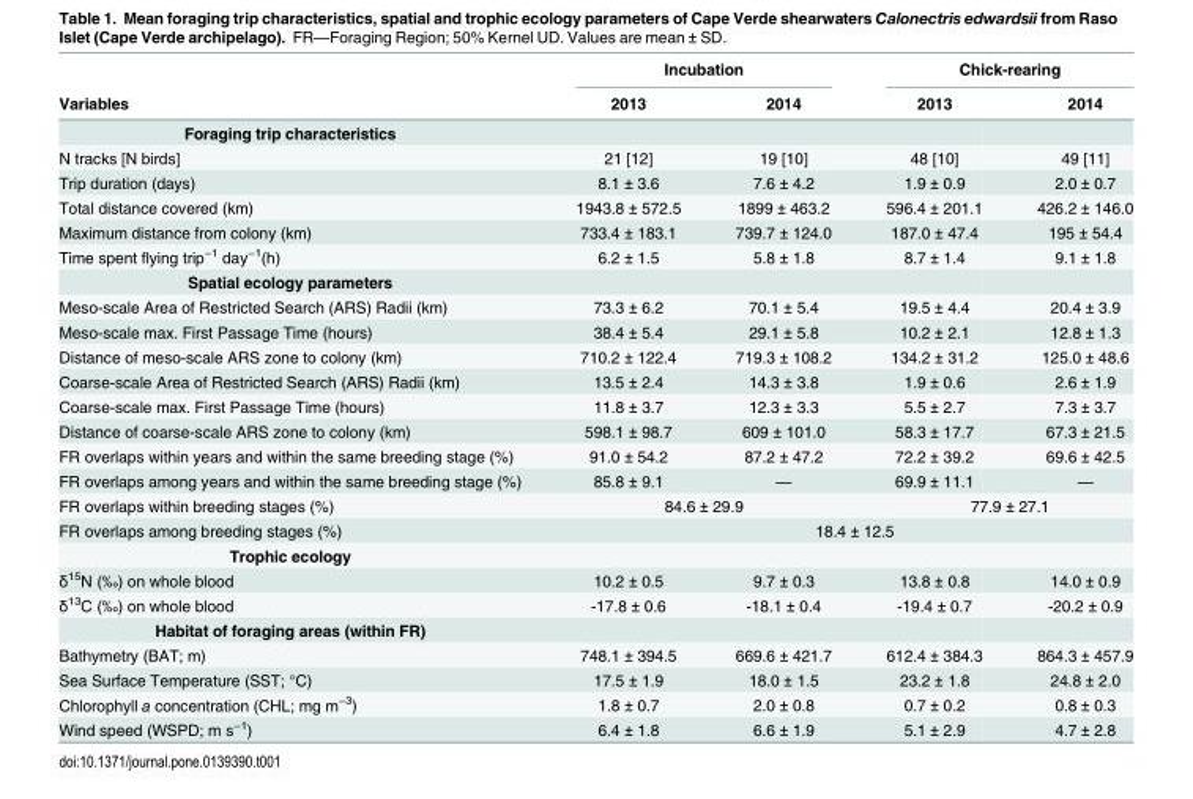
<table><thead><tr><td rowspan="2">Variables</td><td colspan="2">Incubation</td><td colspan="2">Chick-rearing</td></tr><tr><td>2013</td><td>2014</td><td>2013</td><td>2014</td></tr></thead><tbody><tr><td colspan="5">Foraging trip characteristics</td></tr><tr><td>N tracks [N birds]</td><td>21 [12]</td><td>19 [10]</td><td>48 [10]</td><td>49 [11]</td></tr><tr><td>Trip duration (days)</td><td>8.1 ± 3.6</td><td>7.6 ± 4.2</td><td>1.9 ± 0.9</td><td>2.0 ± 0.7</td></tr><tr><td>Total distance covered (km)</td><td>1943.8 ± 572.5</td><td>1899 ± 463.2</td><td>596.4 ± 201.1</td><td>426.2 ± 146.0</td></tr><tr><td>Maximum distance from colony (km)</td><td>733.4 ± 183.1</td><td>739.7 ± 124.0</td><td>187.0 ± 47.4</td><td>195 ± 54.4</td></tr><tr><td>Time spent flying trip<sup>−1</sup> day<sup>−1</sup>(h)</td><td>6.2 ± 1.5</td><td>5.8 ± 1.8</td><td>8.7 ± 1.4</td><td>9.1 ± 1.8</td></tr><tr><td colspan="5">Spatial ecology parameters</td></tr><tr><td>Meso-scale Area of Restricted Search (ARS) Radii (km)</td><td>73.3 ± 6.2</td><td>70.1 ± 5.4</td><td>19.5 ± 4.4</td><td>20.4 ± 3.9</td></tr><tr><td>Meso-scale max. First Passage Time (hours)</td><td>38.4 ± 5.4</td><td>29.1 ± 5.8</td><td>10.2 ± 2.1</td><td>12.8 ± 1.3</td></tr><tr><td>Distance of meso-scale ARS zone to colony (km)</td><td>710.2 ± 122.4</td><td>719.3 ± 108.2</td><td>134.2 ± 31.2</td><td>125.0 ± 48.6</td></tr><tr><td>Coarse-scale Area of Restricted Search (ARS) Radii (km)</td><td>13.5 ± 2.4</td><td>14.3 ± 3.8</td><td>1.9 ± 0.6</td><td>2.6 ± 1.9</td></tr><tr><td>Coarse-scale max. First Passage Time (hours)</td><td>11.8 ± 3.7</td><td>12.3 ± 3.3</td><td>5.5 ± 2.7</td><td>7.3 ± 3.7</td></tr><tr><td>Distance of coarse-scale ARS zone to colony (km)</td><td>598.1 ± 98.7</td><td>609 ± 101.0</td><td>58.3 ± 17.7</td><td>67.3 ± 21.5</td></tr><tr><td>FR overlaps within years and within the same breeding stage (%)</td><td>91.0 ± 54.2</td><td>87.2 ± 47.2</td><td>72.2 ± 39.2</td><td>69.6 ± 42.5</td></tr><tr><td>FR overlaps among years and within the same breeding stage (%)</td><td>85.8 ± 9.1</td><td>—</td><td>69.9 ± 11.1</td><td>—</td></tr><tr><td>FR overlaps within breeding stages (%)</td><td colspan="2">84.6 ± 29.9</td><td colspan="2">77.9 ± 27.1</td></tr><tr><td>FR overlaps among breeding stages (%)</td><td colspan="4">18.4 ± 12.5</td></tr><tr><td colspan="5">Trophic ecology</td></tr><tr><td>δ<sup>15</sup>N (‰) on whole blood</td><td>10.2 ± 0.5</td><td>9.7 ± 0.3</td><td>13.8 ± 0.8</td><td>14.0 ± 0.9</td></tr><tr><td>δ<sup>13</sup>C (‰) on whole blood</td><td>-17.8 ± 0.6</td><td>-18.1 ± 0.4</td><td>-19.4 ± 0.7</td><td>-20.2 ± 0.9</td></tr><tr><td colspan="5">Habitat of foraging areas (within FR)</td></tr><tr><td>Bathymetry (BAT; m)</td><td>748.1 ± 394.5</td><td>669.6 ± 421.7</td><td>612.4 ± 384.3</td><td>864.3 ± 457.9</td></tr><tr><td>Sea Surface Temperature (SST; °C)</td><td>17.5 ± 1.9</td><td>18.0 ± 1.5</td><td>23.2 ± 1.8</td><td>24.8 ± 2.0</td></tr><tr><td>Chlorophyll a concentration (CHL; mg m<sup>−3</sup>)</td><td>1.8 ± 0.7</td><td>2.0 ± 0.8</td><td>0.7 ± 0.2</td><td>0.8 ± 0.3</td></tr><tr><td>Wind speed (WSPD; m s<sup>−1</sup>)</td><td>6.4 ± 1.8</td><td>6.6 ± 1.9</td><td>5.1 ± 2.9</td><td>4.7 ± 2.8</td></tr></tbody></table>